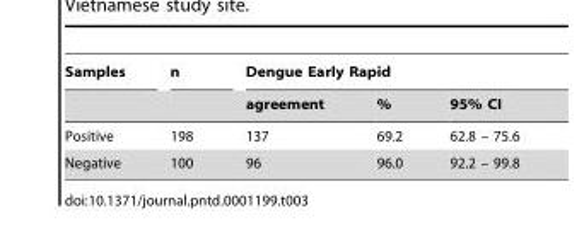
<table><thead><tr><td rowspan="2">Samples</td><td rowspan="2">n</td><td colspan="3">Dengue Early Rapid</td></tr><tr><td>agreement</td><td>%</td><td>95% CI</td></tr></thead><tbody><tr><td>Positive</td><td>198</td><td>137</td><td>69.2</td><td>62.8 – 75.6</td></tr><tr><td>Negative</td><td>100</td><td>96</td><td>96.0</td><td>92.2 – 99.8</td></tr></tbody></table>